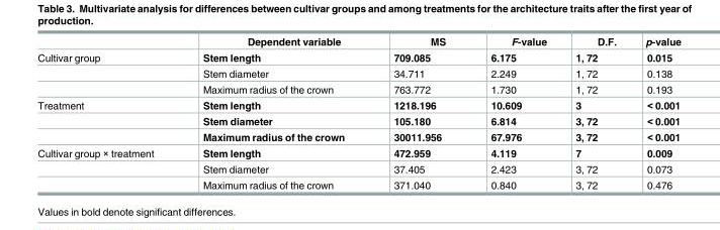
<table><thead><tr><td></td><td>Dependent variable</td><td>MS</td><td>F-value</td><td>D.F.</td><td>p-value</td></tr></thead><tbody><tr><td rowspan="3">Cultivar group</td><td>Stem length</td><td>709.085</td><td>6.175</td><td>1, 72</td><td>0.015</td></tr><tr><td>Stem diameter</td><td>34.711</td><td>2.249</td><td>1, 72</td><td>0.138</td></tr><tr><td>Maximum radius of the crown</td><td>763.772</td><td>1.730</td><td>1, 72</td><td>0.193</td></tr><tr><td rowspan="3">Treatment</td><td>Stem length</td><td>1218.196</td><td>10.609</td><td>3</td><td>&lt; 0.001</td></tr><tr><td>Stem diameter</td><td>105.180</td><td>6.814</td><td>3, 72</td><td>&lt; 0.001</td></tr><tr><td>Maximum radius of the crown</td><td>30011.956</td><td>67.976</td><td>3, 72</td><td>&lt; 0.001</td></tr><tr><td rowspan="3">Cultivar group × treatment</td><td>Stem length</td><td>472.959</td><td>4.119</td><td>7</td><td>0.009</td></tr><tr><td>Stem diameter</td><td>37.405</td><td>2.423</td><td>3, 72</td><td>0.073</td></tr><tr><td>Maximum radius of the crown</td><td>371.040</td><td>0.840</td><td>3, 72</td><td>0.476</td></tr></tbody></table>